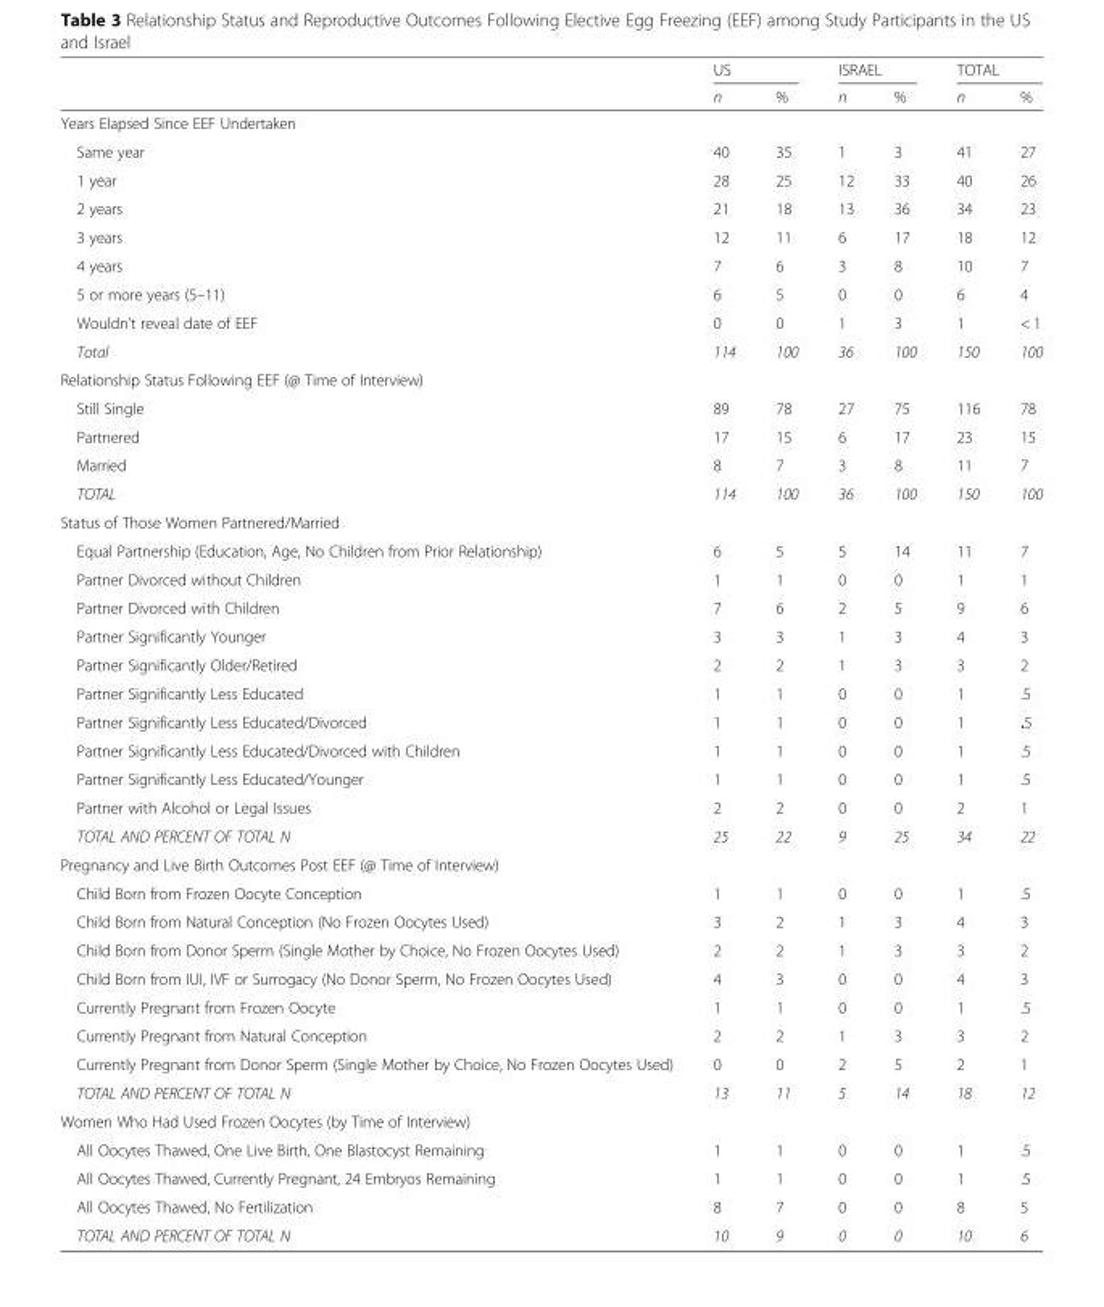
<table><thead><tr><td rowspan="2"></td><td colspan="2">US</td><td colspan="2">ISRAEL</td><td colspan="2">TOTAL</td></tr><tr><td>n</td><td>%</td><td>n</td><td>%</td><td>n</td><td>%</td></tr></thead><tbody><tr><td colspan="7">Years Elapsed Since EEF Undertaken</td></tr><tr><td>Same year</td><td>40</td><td>35</td><td>1</td><td>3</td><td>41</td><td>27</td></tr><tr><td>1 year</td><td>28</td><td>25</td><td>12</td><td>33</td><td>40</td><td>26</td></tr><tr><td>2 years</td><td>21</td><td>18</td><td>13</td><td>36</td><td>34</td><td>23</td></tr><tr><td>3 years</td><td>12</td><td>11</td><td>6</td><td>17</td><td>18</td><td>12</td></tr><tr><td>4 years</td><td>7</td><td>6</td><td>3</td><td>8</td><td>10</td><td>7</td></tr><tr><td>5 or more years (5–11)</td><td>6</td><td>5</td><td>0</td><td>0</td><td>6</td><td>4</td></tr><tr><td>Wouldn’t reveal date of EEF</td><td>0</td><td>0</td><td>1</td><td>3</td><td>1</td><td>&lt; 1</td></tr><tr><td>Total</td><td>114</td><td>100</td><td>36</td><td>100</td><td>150</td><td>100</td></tr><tr><td colspan="7">Relationship Status Following EEF (@ Time of Interview)</td></tr><tr><td>Still Single</td><td>89</td><td>78</td><td>27</td><td>75</td><td>116</td><td>78</td></tr><tr><td>Partnered</td><td>17</td><td>15</td><td>6</td><td>17</td><td>23</td><td>15</td></tr><tr><td>Married</td><td>8</td><td>7</td><td>3</td><td>8</td><td>11</td><td>7</td></tr><tr><td>TOTAL</td><td>114</td><td>100</td><td>36</td><td>100</td><td>150</td><td>100</td></tr><tr><td colspan="7">Status of Those Women Partnered/Married</td></tr><tr><td>Equal Partnership (Education, Age, No Children from Prior Relationship)</td><td>6</td><td>5</td><td>5</td><td>14</td><td>11</td><td>7</td></tr><tr><td>Partner Divorced without Children</td><td>1</td><td>1</td><td>0</td><td>0</td><td>1</td><td>1</td></tr><tr><td>Partner Divorced with Children</td><td>7</td><td>6</td><td>2</td><td>5</td><td>9</td><td>6</td></tr><tr><td>Partner Significantly Younger</td><td>3</td><td>3</td><td>1</td><td>3</td><td>4</td><td>3</td></tr><tr><td>Partner Significantly Older/Retired</td><td>2</td><td>2</td><td>1</td><td>3</td><td>3</td><td>2</td></tr><tr><td>Partner Significantly Less Educated</td><td>1</td><td>1</td><td>0</td><td>0</td><td>1</td><td>.5</td></tr><tr><td>Partner Significantly Less Educated/Divorced</td><td>1</td><td>1</td><td>0</td><td>0</td><td>1</td><td>.5</td></tr><tr><td>Partner Significantly Less Educated/Divorced with Children</td><td>1</td><td>1</td><td>0</td><td>0</td><td>1</td><td>.5</td></tr><tr><td>Partner Significantly Less Educated/Younger</td><td>1</td><td>1</td><td>0</td><td>0</td><td>1</td><td>.5</td></tr><tr><td>Partner with Alcohol or Legal Issues</td><td>2</td><td>2</td><td>0</td><td>0</td><td>2</td><td>1</td></tr><tr><td>TOTAL AND PERCENT OF TOTAL N</td><td>25</td><td>22</td><td>9</td><td>25</td><td>34</td><td>22</td></tr><tr><td colspan="7">Pregnancy and Live Birth Outcomes Post EEF (@ Time of Interview)</td></tr><tr><td>Child Born from Frozen Oocyte Conception</td><td>1</td><td>1</td><td>0</td><td>0</td><td>1</td><td>.5</td></tr><tr><td>Child Born from Natural Conception (No Frozen Oocytes Used)</td><td>3</td><td>2</td><td>1</td><td>3</td><td>4</td><td>3</td></tr><tr><td>Child Born from Donor Sperm (Single Mother by Choice, No Frozen Oocytes Used)</td><td>2</td><td>2</td><td>1</td><td>3</td><td>3</td><td>2</td></tr><tr><td>Child Born from IUI, IVF or Surrogacy (No Donor Sperm, No Frozen Oocytes Used)</td><td>4</td><td>3</td><td>0</td><td>0</td><td>4</td><td>3</td></tr><tr><td>Currently Pregnant from Frozen Oocyte</td><td>1</td><td>1</td><td>0</td><td>0</td><td>1</td><td>.5</td></tr><tr><td>Currently Pregnant from Natural Conception</td><td>2</td><td>2</td><td>1</td><td>3</td><td>3</td><td>2</td></tr><tr><td>Currently Pregnant from Donor Sperm (Single Mother by Choice, No Frozen Oocytes Used)</td><td>0</td><td>0</td><td>2</td><td>5</td><td>2</td><td>1</td></tr><tr><td>TOTAL AND PERCENT OF TOTAL N</td><td>13</td><td>11</td><td>5</td><td>14</td><td>18</td><td>12</td></tr><tr><td colspan="7">Women Who Had Used Frozen Oocytes (by Time of Interview)</td></tr><tr><td>All Oocytes Thawed, One Live Birth, One Blastocyst Remaining</td><td>1</td><td>1</td><td>0</td><td>0</td><td>1</td><td>.5</td></tr><tr><td>All Oocytes Thawed, Currently Pregnant, 24 Embryos Remaining</td><td>1</td><td>1</td><td>0</td><td>0</td><td>1</td><td>.5</td></tr><tr><td>All Oocytes Thawed, No Fertilization</td><td>8</td><td>7</td><td>0</td><td>0</td><td>8</td><td>5</td></tr><tr><td>TOTAL AND PERCENT OF TOTAL N</td><td>10</td><td>9</td><td>0</td><td>0</td><td>10</td><td>6</td></tr></tbody></table>